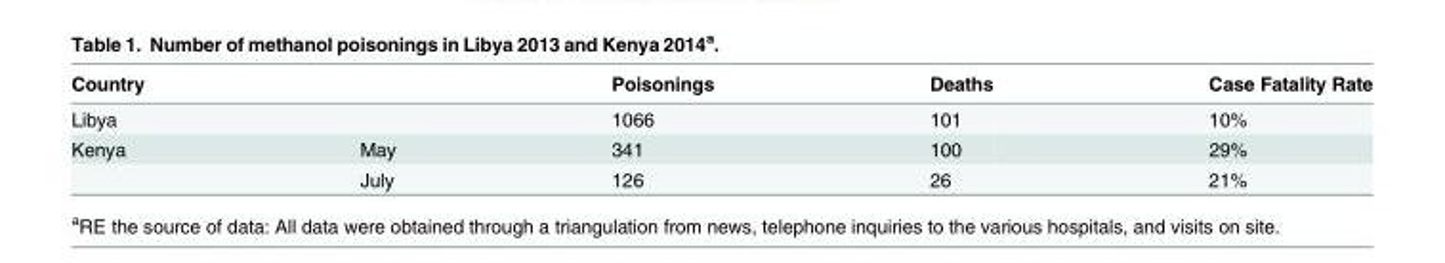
<table><thead><tr><td>Country</td><td></td><td>Poisonings</td><td>Deaths</td><td>Case Fatality Rate</td></tr></thead><tbody><tr><td>Libya</td><td></td><td>1066</td><td>101</td><td>10%</td></tr><tr><td rowspan="2">Kenya</td><td>May</td><td>341</td><td>100</td><td>29%</td></tr><tr><td>July</td><td>126</td><td>26</td><td>21%</td></tr></tbody></table>